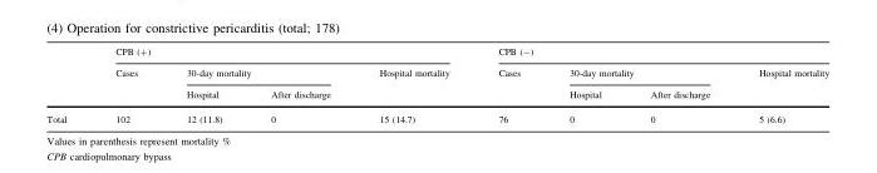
<table><thead><tr><td rowspan="3"></td><td colspan="4">CPB (+)</td><td colspan="4">CPB (-)</td></tr><tr><td rowspan="2">Cases</td><td colspan="2">30-day mortality</td><td rowspan="2">Hospital mortality</td><td rowspan="2">Cases</td><td colspan="2">30-day mortality</td><td rowspan="2">Hospital mortality</td></tr><tr><td>Hospital</td><td>After discharge</td><td>Hospital</td><td>After discharge</td></tr></thead><tbody><tr><td>Total</td><td>102</td><td>12 (11.8)</td><td>0</td><td>15 (14.7)</td><td>76</td><td>0</td><td>0</td><td>5 (6.6)</td></tr></tbody></table>